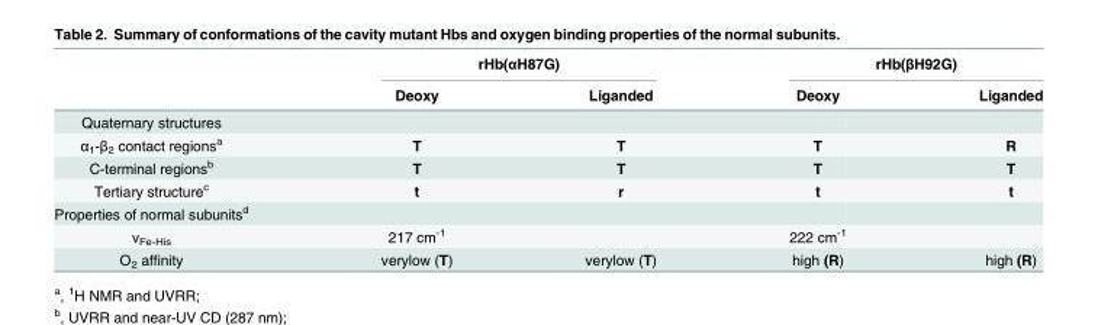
<table><thead><tr><td rowspan="2"></td><td colspan="2">rHb(αH87G)</td><td colspan="2">rHb(βH92G)</td></tr><tr><td>Deoxy</td><td>Liganded</td><td>Deoxy</td><td>Liganded</td></tr></thead><tbody><tr><td colspan="5">Quaternary structures</td></tr><tr><td>α<sub>1</sub>-β<sub>2</sub> contact regions<sup>a</sup></td><td>T</td><td>T</td><td>T</td><td>R</td></tr><tr><td>C-terminal regions<sup>b</sup></td><td>T</td><td>T</td><td>T</td><td>T</td></tr><tr><td>Tertiary structure<sup>c</sup></td><td>t</td><td>r</td><td>t</td><td>t</td></tr><tr><td colspan="5">Properties of normal subunits<sup>d</sup></td></tr><tr><td>ν<sub>Fe-His</sub></td><td>217 cm<sup>-1</sup></td><td></td><td>222 cm<sup>-1</sup></td><td></td></tr><tr><td>O<sub>2</sub> affinity</td><td>verylow (T)</td><td>verylow (T)</td><td>high (R)</td><td>high (R)</td></tr></tbody></table>